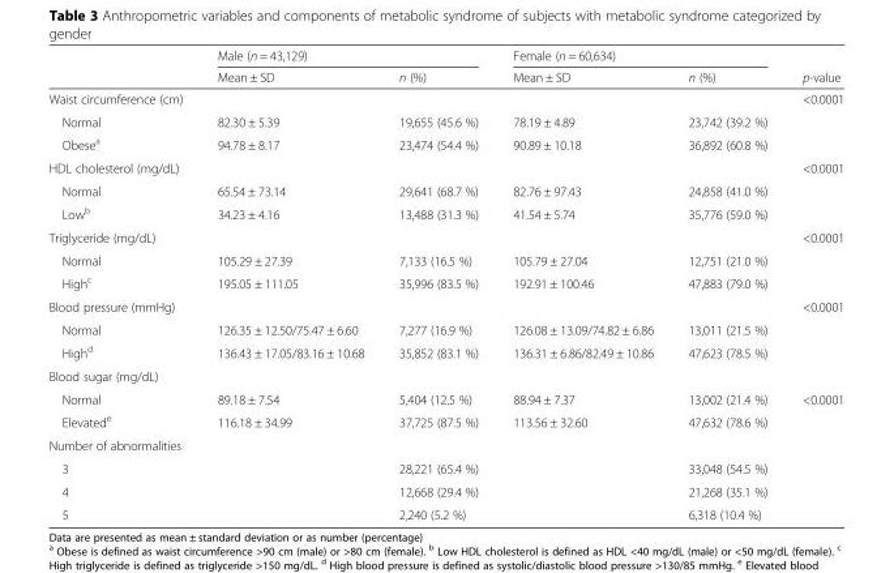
<table><thead><tr><td rowspan="2"></td><td colspan="2">Male (n = 43,129)</td><td colspan="2">Female (n = 60,634)</td><td rowspan="2">p-value</td></tr><tr><td>Mean ± SD</td><td>n (%)</td><td>Mean ± SD</td><td>n (%)</td></tr></thead><tbody><tr><td>Waist circumference (cm)</td><td></td><td></td><td></td><td></td><td>&lt;0.0001</td></tr><tr><td>Normal</td><td>82.30 ± 5.39</td><td>19,655 (45.6 %)</td><td>78.19 ± 4.89</td><td>23,742 (39.2 %)</td><td></td></tr><tr><td>Obese<sup>a</sup></td><td>94.78 ± 8.17</td><td>23,474 (54.4 %)</td><td>90.89 ± 10.18</td><td>36,892 (60.8 %)</td><td></td></tr><tr><td>HDL cholesterol (mg/dL)</td><td></td><td></td><td></td><td></td><td>&lt;0.0001</td></tr><tr><td>Normal</td><td>65.54 ± 73.14</td><td>29,641 (68.7 %)</td><td>82.76 ± 97.43</td><td>24,858 (41.0 %)</td><td></td></tr><tr><td>Low<sup>b</sup></td><td>34.23 ± 4.16</td><td>13,488 (31.3 %)</td><td>41.54 ± 5.74</td><td>35,776 (59.0 %)</td><td></td></tr><tr><td>Triglyceride (mg/dL)</td><td></td><td></td><td></td><td></td><td>&lt;0.0001</td></tr><tr><td>Normal</td><td>105.29 ± 27.39</td><td>7,133 (16.5 %)</td><td>105.79 ± 27.04</td><td>12,751 (21.0 %)</td><td></td></tr><tr><td>High<sup>c</sup></td><td>195.05 ± 111.05</td><td>35,996 (83.5 %)</td><td>192.91 ± 100.46</td><td>47,883 (79.0 %)</td><td></td></tr><tr><td>Blood pressure (mmHg)</td><td></td><td></td><td></td><td></td><td>&lt;0.0001</td></tr><tr><td>Normal</td><td>126.35 ± 12.50/75.47 ± 6.60</td><td>7,277 (16.9 %)</td><td>126.08 ± 13.09/74.82 ± 6.86</td><td>13,011 (21.5 %)</td><td></td></tr><tr><td>High<sup>d</sup></td><td>136.43 ± 17.05/83.16 ± 10.68</td><td>35,852 (83.1 %)</td><td>136.31 ± 6.86/82.49 ± 10.86</td><td>47,623 (78.5 %)</td><td></td></tr><tr><td colspan="6">Blood sugar (mg/dL)</td></tr><tr><td>Normal</td><td>89.18 ± 7.54</td><td>5,404 (12.5 %)</td><td>88.94 ± 7.37</td><td>13,002 (21.4 %)</td><td>&lt;0.0001</td></tr><tr><td>Elevated<sup>e</sup></td><td>116.18 ± 34.99</td><td>37,725 (87.5 %)</td><td>113.56 ± 32.60</td><td>47,632 (78.6 %)</td><td></td></tr><tr><td colspan="6">Number of abnormalities</td></tr><tr><td>3</td><td></td><td>28,221 (65.4 %)</td><td></td><td>33,048 (54.5 %)</td><td></td></tr><tr><td>4</td><td></td><td>12,668 (29.4 %)</td><td></td><td>21,268 (35.1 %)</td><td></td></tr><tr><td>5</td><td></td><td>2,240 (5.2 %)</td><td></td><td>6,318 (10.4 %)</td><td></td></tr></tbody></table>